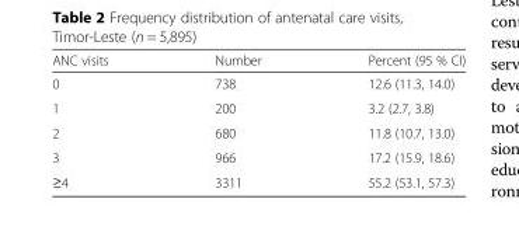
<table><thead><tr><td>ANC visits</td><td>Number</td><td>Percent (95 % CI)</td></tr></thead><tbody><tr><td>0</td><td>738</td><td>12.6 (11.3, 14.0)</td></tr><tr><td>1</td><td>200</td><td>3.2 (2.7, 3.8)</td></tr><tr><td>2</td><td>680</td><td>11.8 (10.7, 13.0)</td></tr><tr><td>3</td><td>966</td><td>17.2 (15.9, 18.6)</td></tr><tr><td>≥4</td><td>3311</td><td>55.2 (53.1, 57.3)</td></tr></tbody></table>